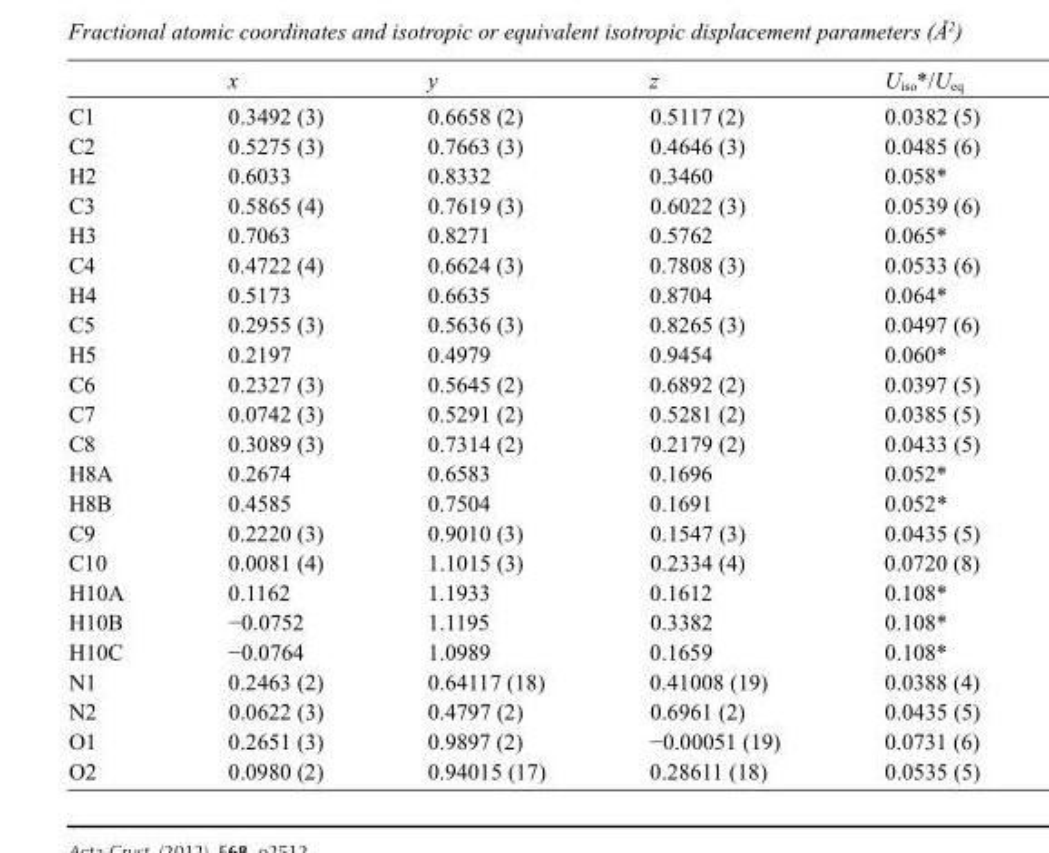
<table><thead><tr><td></td><td>x</td><td>y</td><td>z</td><td>U<sub>iso</sub>*/U<sub>eq</sub></td></tr></thead><tbody><tr><td>C1</td><td>0.3492 (3)</td><td>0.6658 (2)</td><td>0.5117 (2)</td><td>0.0382 (5)</td></tr><tr><td>C2</td><td>0.5275 (3)</td><td>0.7663 (3)</td><td>0.4646 (3)</td><td>0.0485 (6)</td></tr><tr><td>H2</td><td>0.6033</td><td>0.8332</td><td>0.3460</td><td>0.058*</td></tr><tr><td>C3</td><td>0.5865 (4)</td><td>0.7619 (3)</td><td>0.6022 (3)</td><td>0.0539 (6)</td></tr><tr><td>H3</td><td>0.7063</td><td>0.8271</td><td>0.5762</td><td>0.065*</td></tr><tr><td>C4</td><td>0.4722 (4)</td><td>0.6624 (3)</td><td>0.7808 (3)</td><td>0.0533 (6)</td></tr><tr><td>H4</td><td>0.5173</td><td>0.6635</td><td>0.8704</td><td>0.064*</td></tr><tr><td>C5</td><td>0.2955 (3)</td><td>0.5636 (3)</td><td>0.8265 (3)</td><td>0.0497 (6)</td></tr><tr><td>H5</td><td>0.2197</td><td>0.4979</td><td>0.9454</td><td>0.060*</td></tr><tr><td>C6</td><td>0.2327 (3)</td><td>0.5645 (2)</td><td>0.6892 (2)</td><td>0.0397 (5)</td></tr><tr><td>C7</td><td>0.0742 (3)</td><td>0.5291 (2)</td><td>0.5281 (2)</td><td>0.0385 (5)</td></tr><tr><td>C8</td><td>0.3089 (3)</td><td>0.7314 (2)</td><td>0.2179 (2)</td><td>0.0433 (5)</td></tr><tr><td>H8A</td><td>0.2674</td><td>0.6583</td><td>0.1696</td><td>0.052*</td></tr><tr><td>H8B</td><td>0.4585</td><td>0.7504</td><td>0.1691</td><td>0.052*</td></tr><tr><td>C9</td><td>0.2220 (3)</td><td>0.9010 (3)</td><td>0.1547 (3)</td><td>0.0435 (5)</td></tr><tr><td>C10</td><td>0.0081 (4)</td><td>1.1015 (3)</td><td>0.2334 (4)</td><td>0.0720 (8)</td></tr><tr><td>H10A</td><td>0.1162</td><td>1.1933</td><td>0.1612</td><td>0.108*</td></tr><tr><td>H10B</td><td>−0.0752</td><td>1.1195</td><td>0.3382</td><td>0.108*</td></tr><tr><td>H10C</td><td>−0.0764</td><td>1.0989</td><td>0.1659</td><td>0.108*</td></tr><tr><td>N1</td><td>0.2463 (2)</td><td>0.64117 (18)</td><td>0.41008 (19)</td><td>0.0388 (4)</td></tr><tr><td>N2</td><td>0.0622 (3)</td><td>0.4797 (2)</td><td>0.6961 (2)</td><td>0.0435 (5)</td></tr><tr><td>O1</td><td>0.2651 (3)</td><td>0.9897 (2)</td><td>−0.00051 (19)</td><td>0.0731 (6)</td></tr><tr><td>O2</td><td>0.0980 (2)</td><td>0.94015 (17)</td><td>0.28611 (18)</td><td>0.0535 (5)</td></tr></tbody></table>